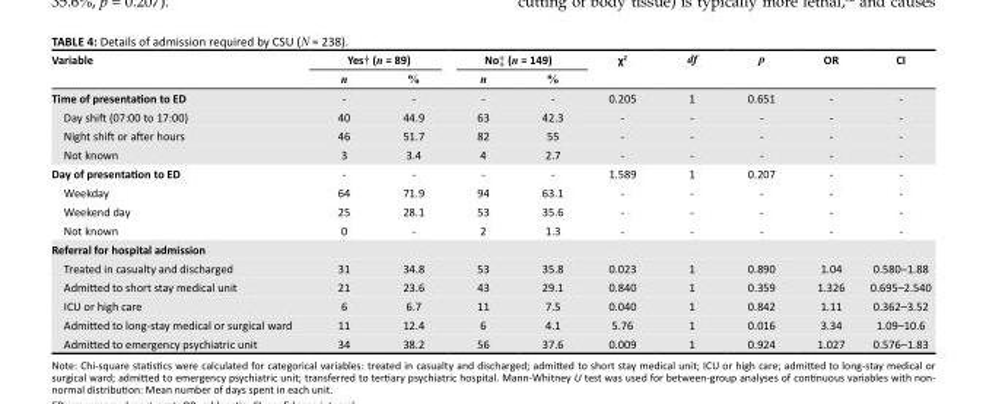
<table><thead><tr><td rowspan="2">Variable</td><td colspan="2">Yes† (n = 89)</td><td colspan="2">No‡ (n = 149)</td><td rowspan="2">χ<sup>2</sup></td><td rowspan="2">df</td><td rowspan="2">p</td><td rowspan="2">OR</td><td rowspan="2">CI</td></tr><tr><td>n</td><td>%</td><td>n</td><td>%</td></tr></thead><tbody><tr><td>Time of presentation to ED</td><td>-</td><td>-</td><td>-</td><td>-</td><td>0.205</td><td>1</td><td>0.651</td><td>-</td><td>-</td></tr><tr><td>Day shift (07:00 to 17:00)</td><td>40</td><td>44.9</td><td>63</td><td>42.3</td><td>-</td><td>-</td><td>-</td><td>-</td><td>-</td></tr><tr><td>Night shift or after hours</td><td>46</td><td>51.7</td><td>82</td><td>55</td><td>-</td><td>-</td><td>-</td><td>-</td><td>-</td></tr><tr><td>Not known</td><td>3</td><td>3.4</td><td>4</td><td>2.7</td><td>-</td><td>-</td><td>-</td><td>-</td><td>-</td></tr><tr><td>Day of presentation to ED</td><td>-</td><td>-</td><td>-</td><td>-</td><td>1.589</td><td>1</td><td>0.207</td><td>-</td><td>-</td></tr><tr><td>Weekday</td><td>64</td><td>71.9</td><td>94</td><td>63.1</td><td>-</td><td>-</td><td>-</td><td>-</td><td>-</td></tr><tr><td>Weekend day</td><td>25</td><td>28.1</td><td>53</td><td>35.6</td><td>-</td><td>-</td><td>-</td><td>-</td><td>-</td></tr><tr><td>Not known</td><td>0</td><td>-</td><td>2</td><td>1.3</td><td>-</td><td>-</td><td>-</td><td>-</td><td>-</td></tr><tr><td colspan="10">Referral for hospital admission</td></tr><tr><td>Treated in casualty and discharged</td><td>31</td><td>34.8</td><td>53</td><td>35.8</td><td>0.023</td><td>1</td><td>0.890</td><td>1.04</td><td>0.580–1.88</td></tr><tr><td>Admitted to short stay medical unit</td><td>21</td><td>23.6</td><td>43</td><td>29.1</td><td>0.840</td><td>1</td><td>0.359</td><td>1.326</td><td>0.695–2.540</td></tr><tr><td>ICU or high care</td><td>6</td><td>6.7</td><td>11</td><td>7.5</td><td>0.040</td><td>1</td><td>0.842</td><td>1.11</td><td>0.362–3.52</td></tr><tr><td>Admitted to long-stay medical or surgical ward</td><td>11</td><td>12.4</td><td>6</td><td>4.1</td><td>5.76</td><td>1</td><td>0.016</td><td>3.34</td><td>1.09–10.6</td></tr><tr><td>Admitted to emergency psychiatric unit</td><td>34</td><td>38.2</td><td>56</td><td>37.6</td><td>0.009</td><td>1</td><td>0.924</td><td>1.027</td><td>0.576–1.83</td></tr></tbody></table>